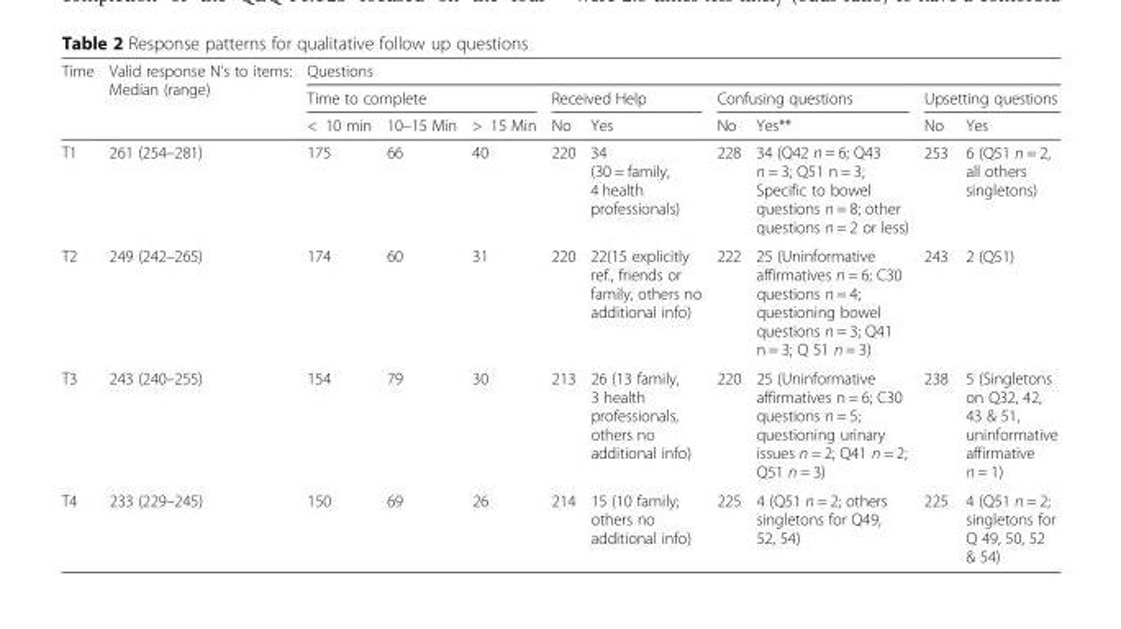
<table><thead><tr><td rowspan="3">Time</td><td rowspan="3">Valid response N’s to items: Median (range)</td><td colspan="9">Questions</td></tr><tr><td colspan="3">Time to complete</td><td colspan="2">Received Help</td><td colspan="2">Confusing questions</td><td colspan="2">Upsetting questions</td></tr><tr><td>&lt; 10 min</td><td>10–15 Min</td><td>&gt; 15 Min</td><td>No</td><td>Yes</td><td>No</td><td>Yes**</td><td>No</td><td>Yes</td></tr></thead><tbody><tr><td>T1</td><td>261 (254–281)</td><td>175</td><td>66</td><td>40</td><td>220</td><td>34 (30 = family, 4 health professionals)</td><td>228</td><td>34 (Q42 n = 6; Q43 n = 3; Q51 n = 3; Specific to bowel questions n = 8; other questions n = 2 or less)</td><td>253</td><td>6 (Q51 n = 2, all others singletons)</td></tr><tr><td>T2</td><td>249 (242–265)</td><td>174</td><td>60</td><td>31</td><td>220</td><td>22(15 explicitly ref., friends or family, others no additional info)</td><td>222</td><td>25 (Uninformative affirmatives n = 6; C30 questions n = 4; questioning bowel questions n = 3; Q41 n = 3; Q 51 n = 3)</td><td>243</td><td>2 (Q51)</td></tr><tr><td>T3</td><td>243 (240–255)</td><td>154</td><td>79</td><td>30</td><td>213</td><td>26 (13 family, 3 health professionals, others no additional info)</td><td>220</td><td>25 (Uninformative affirmatives n = 6; C30 questions n = 5; questioning urinary issues n = 2; Q41 n = 2; Q51 n = 3)</td><td>238</td><td>5 (Singletons on Q32, 42, 43 &amp; 51, uninformative affirmative n = 1)</td></tr><tr><td>T4</td><td>233 (229–245)</td><td>150</td><td>69</td><td>26</td><td>214</td><td>15 (10 family; others no additional info)</td><td>225</td><td>4 (Q51 n = 2; others singletons for Q49, 52, 54)</td><td>225</td><td>4 (Q51 n = 2; singletons for Q 49, 50, 52 &amp; 54)</td></tr></tbody></table>